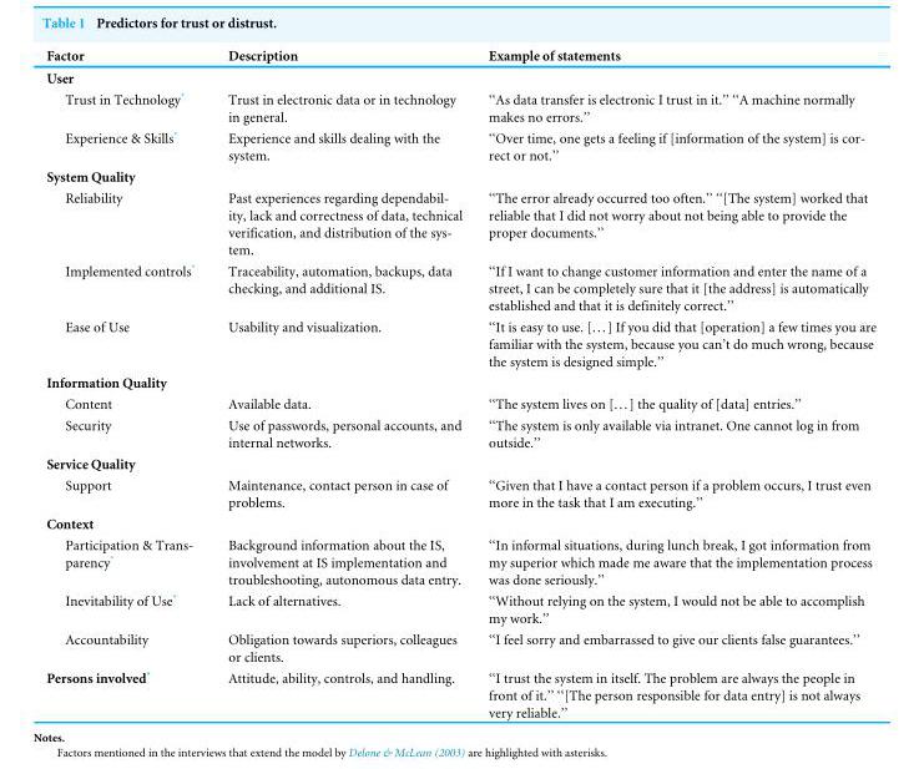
<table><thead><tr><td>Factor</td><td>Description</td><td>Example of statements</td></tr></thead><tbody><tr><td colspan="3">User</td></tr><tr><td>Trust in Technology*</td><td>Trust in electronic data or in technology in general.</td><td>‘‘As data transfer is electronic I trust in it.’’ ‘‘A machine normally makes no errors.’’</td></tr><tr><td>Experience &amp; Skills*</td><td>Experience and skills dealing with the system.</td><td>‘‘Over time, one gets a feeling if [information of the system] is cor- rect or not.’’</td></tr><tr><td colspan="3">System Quality</td></tr><tr><td>Reliability</td><td>Past experiences regarding dependabil- ity, lack and correctness of data, technical verification, and distribution of the sys- tem.</td><td>‘‘The error already occurred too often.’’ ‘‘[The system] worked that reliable that I did not worry about not being able to provide the proper documents.’’</td></tr><tr><td>Implemented controls*</td><td>Traceability, automation, backups, data checking, and additional IS.</td><td>‘‘If I want to change customer information and enter the name of a street, I can be completely sure that it [the address] is automatically established and that it is definitely correct.’’</td></tr><tr><td>Ease of Use</td><td>Usability and visualization.</td><td>‘‘It is easy to use. [...] If you did that [operation] a few times you are familiar with the system, because you can’t do much wrong, because the system is designed simple.’’</td></tr><tr><td colspan="3">Information Quality</td></tr><tr><td>Content</td><td>Available data.</td><td>‘‘The system lives on [...] the quality of [data] entries.’’</td></tr><tr><td>Security</td><td>Use of passwords, personal accounts, and internal networks.</td><td>‘‘The system is only available via intranet. One cannot log in from outside.’’</td></tr><tr><td colspan="3">Service Quality</td></tr><tr><td>Support</td><td>Maintenance, contact person in case of problems.</td><td>‘‘Given that I have a contact person if a problem occurs, I trust even more in the task that I am executing.’’</td></tr><tr><td colspan="3">Context</td></tr><tr><td>Participation &amp; Trans- parency*</td><td>Background information about the IS, involvement at IS implementation and troubleshooting, autonomous data entry.</td><td>‘‘In informal situations, during lunch break, I got information from my superior which made me aware that the implementation process was done seriously.’’</td></tr><tr><td>Inevitability of Use*</td><td>Lack of alternatives.</td><td>‘‘Without relying on the system, I would not be able to accomplish my work.’’</td></tr><tr><td>Accountability</td><td>Obligation towards superiors, colleagues or clients.</td><td>‘‘I feel sorry and embarrassed to give our clients false guarantees.’’</td></tr><tr><td>Persons involved*</td><td>Attitude, ability, controls, and handling.</td><td>‘‘I trust the system in itself. The problem are always the people in front of it.’’ ‘‘[The person responsible for data entry] is not always very reliable.’’</td></tr></tbody></table>